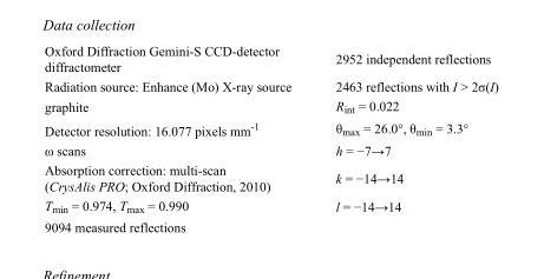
<table><tbody><tr><td>Oxford Diffraction Gemini-S CCD-detector diffractometer</td><td>2952 independent reflections</td></tr><tr><td>Radiation source: Enhance (Mo) X-ray source</td><td>2463 reflections with I &gt; 2σ(I)</td></tr><tr><td>graphite</td><td>R<sub>int</sub> = 0.022</td></tr><tr><td>Detector resolution: 16.077 pixels mm<sup>-1</sup></td><td>θ<sub>max</sub> = 26.0°, θ<sub>min</sub> = 3.3°</td></tr><tr><td>ω scans</td><td>h = −7→7</td></tr><tr><td>Absorption correction: multi-scan (CrysAlis PRO; Oxford Diffraction, 2010)</td><td>k = −14→14</td></tr><tr><td>T<sub>min</sub> = 0.974, T<sub>max</sub> = 0.990</td><td>l = −14→14</td></tr><tr><td>9094 measured reflections</td><td></td></tr></tbody></table>